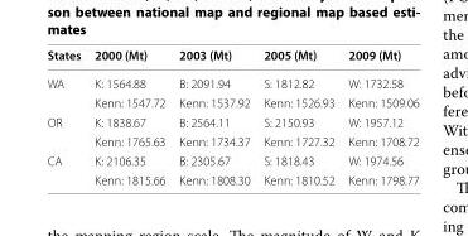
<table><thead><tr><td>States</td><td>2000 (Mt)</td><td>2003 (Mt)</td><td>2005 (Mt)</td><td>2009 (Mt)</td></tr></thead><tbody><tr><td rowspan="2">WA</td><td>K: 1564.88</td><td>B: 2091.94</td><td>S: 1812.82</td><td>W: 1732.58</td></tr><tr><td>Kenn: 1547.72</td><td>Kenn: 1537.92</td><td>Kenn: 1526.93</td><td>Kenn: 1509.06</td></tr><tr><td rowspan="2">OR</td><td>K: 1838.67</td><td>B: 2564.11</td><td>S: 2150.93</td><td>W: 1957.12</td></tr><tr><td>Kenn: 1765.63</td><td>Kenn: 1734.37</td><td>Kenn: 1727.32</td><td>Kenn: 1708.72</td></tr><tr><td rowspan="2">CA</td><td>K: 2106.35</td><td>B: 2305.67</td><td>S: 1818.43</td><td>W: 1974.56</td></tr><tr><td>Kenn: 1815.66</td><td>Kenn: 1808.30</td><td>Kenn: 1810.52</td><td>Kenn: 1798.77</td></tr></tbody></table>